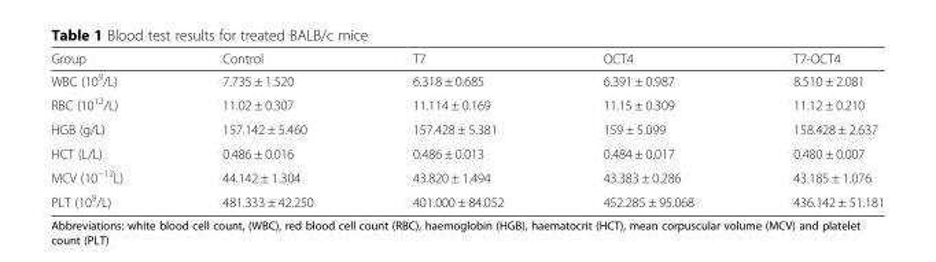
<table><thead><tr><td>Group</td><td>Control</td><td>T7</td><td>OCT4</td><td>T7-OCT4</td></tr></thead><tbody><tr><td>WBC (10<sup>9</sup>/L)</td><td>7.735 ± 1.520</td><td>6.318 ± 0.685</td><td>6.391 ± 0.987</td><td>8.510 ± 2.081</td></tr><tr><td>RBC (10<sup>12</sup>/L)</td><td>11.02 ± 0.307</td><td>11.114 ± 0.169</td><td>11.15 ± 0.309</td><td>11.12 ± 0.210</td></tr><tr><td>HGB (g/L)</td><td>157.142 ± 5.460</td><td>157.428 ± 5.381</td><td>159 ± 5.099</td><td>158.428 ± 2.637</td></tr><tr><td>HCT (L/L)</td><td>0.486 ± 0.016</td><td>0.486 ± 0.013</td><td>0.484 ± 0.017</td><td>0.480 ± 0.007</td></tr><tr><td>MCV (10<sup>−12</sup>L)</td><td>44.142 ± 1.304</td><td>43.820 ± 1.494</td><td>43.383 ± 0.286</td><td>43.185 ± 1.076</td></tr><tr><td>PLT (10<sup>9</sup>/L)</td><td>481.333 ± 42.250</td><td>401.000 ± 84.052</td><td>452.285 ± 95.068</td><td>436.142 ± 51.181</td></tr></tbody></table>